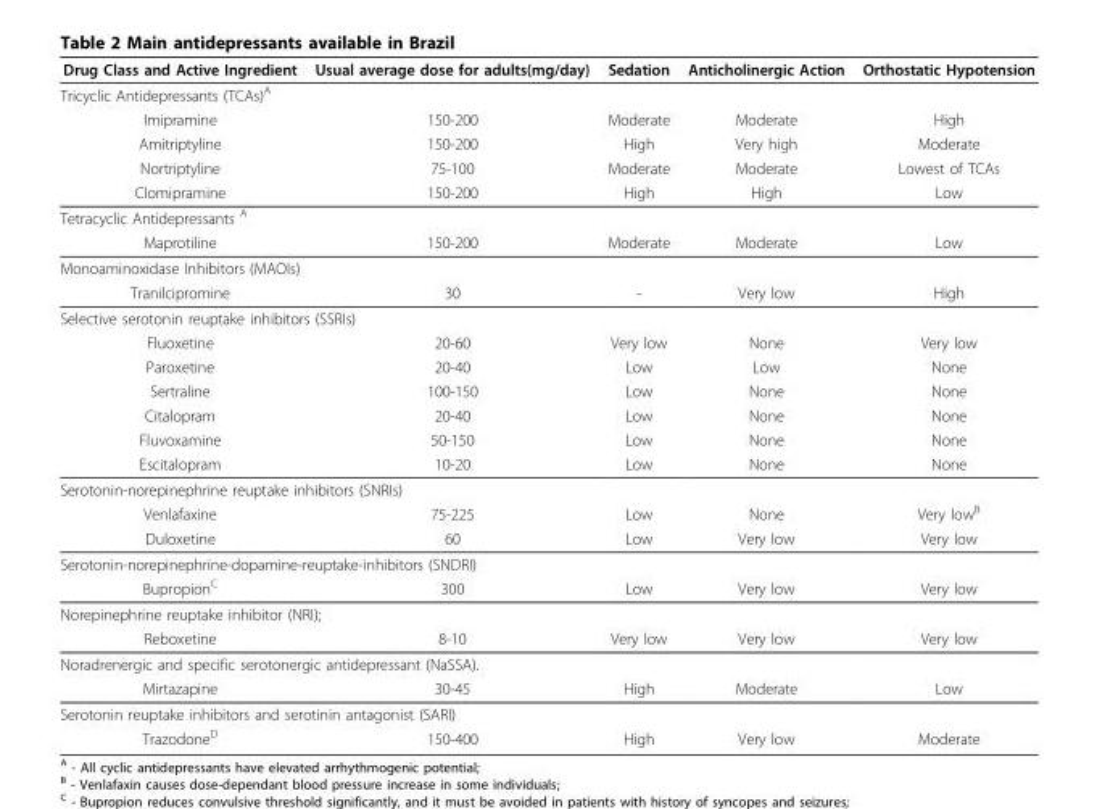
<table><thead><tr><td>Drug Class and Active Ingredient</td><td>Usual average dose for adults(mg/day)</td><td>Sedation</td><td>Anticholinergic Action</td><td>Orthostatic Hypotension</td></tr></thead><tbody><tr><td colspan="5">Tricyclic Antidepressants (TCAs)<sup>A</sup></td></tr><tr><td>Imipramine</td><td>150-200</td><td>Moderate</td><td>Moderate</td><td>High</td></tr><tr><td>Amitriptyline</td><td>150-200</td><td>High</td><td>Very high</td><td>Moderate</td></tr><tr><td>Nortriptyline</td><td>75-100</td><td>Moderate</td><td>Moderate</td><td>Lowest of TCAs</td></tr><tr><td>Clomipramine</td><td>150-200</td><td>High</td><td>High</td><td>Low</td></tr><tr><td colspan="5">Tetracyclic Antidepressants <sup>A</sup></td></tr><tr><td>Maprotiline</td><td>150-200</td><td>Moderate</td><td>Moderate</td><td>Low</td></tr><tr><td colspan="5">Monoaminoxidase Inhibitors (MAOIs)</td></tr><tr><td>Tranilcipromine</td><td>30</td><td>-</td><td>Very low</td><td>High</td></tr><tr><td colspan="5">Selective serotonin reuptake inhibitors (SSRIs)</td></tr><tr><td>Fluoxetine</td><td>20-60</td><td>Very low</td><td>None</td><td>Very low</td></tr><tr><td>Paroxetine</td><td>20-40</td><td>Low</td><td>Low</td><td>None</td></tr><tr><td>Sertraline</td><td>100-150</td><td>Low</td><td>None</td><td>None</td></tr><tr><td>Citalopram</td><td>20-40</td><td>Low</td><td>None</td><td>None</td></tr><tr><td>Fluvoxamine</td><td>50-150</td><td>Low</td><td>None</td><td>None</td></tr><tr><td>Escitalopram</td><td>10-20</td><td>Low</td><td>None</td><td>None</td></tr><tr><td colspan="5">Serotonin-norepinephrine reuptake inhibitors (SNRIs)</td></tr><tr><td>Venlafaxine</td><td>75-225</td><td>Low</td><td>None</td><td>Very low<sup>B</sup></td></tr><tr><td>Duloxetine</td><td>60</td><td>Low</td><td>Very low</td><td>Very low</td></tr><tr><td colspan="5">Serotonin-norepinephrine-dopamine-reuptake-inhibitors (SNDRI)</td></tr><tr><td>Bupropion<sup>C</sup></td><td>300</td><td>Low</td><td>Very low</td><td>Very low</td></tr><tr><td colspan="5">Norepinephrine reuptake inhibitor (NRI);</td></tr><tr><td>Reboxetine</td><td>8-10</td><td>Very low</td><td>Very low</td><td>Very low</td></tr><tr><td colspan="5">Noradrenergic and specific serotonergic antidepressant (NaSSA).</td></tr><tr><td>Mirtazapine</td><td>30-45</td><td>High</td><td>Moderate</td><td>Low</td></tr><tr><td colspan="5">Serotonin reuptake inhibitors and serotinin antagonist (SARI)</td></tr><tr><td>Trazodone<sup>D</sup></td><td>150-400</td><td>High</td><td>Very low</td><td>Moderate</td></tr></tbody></table>